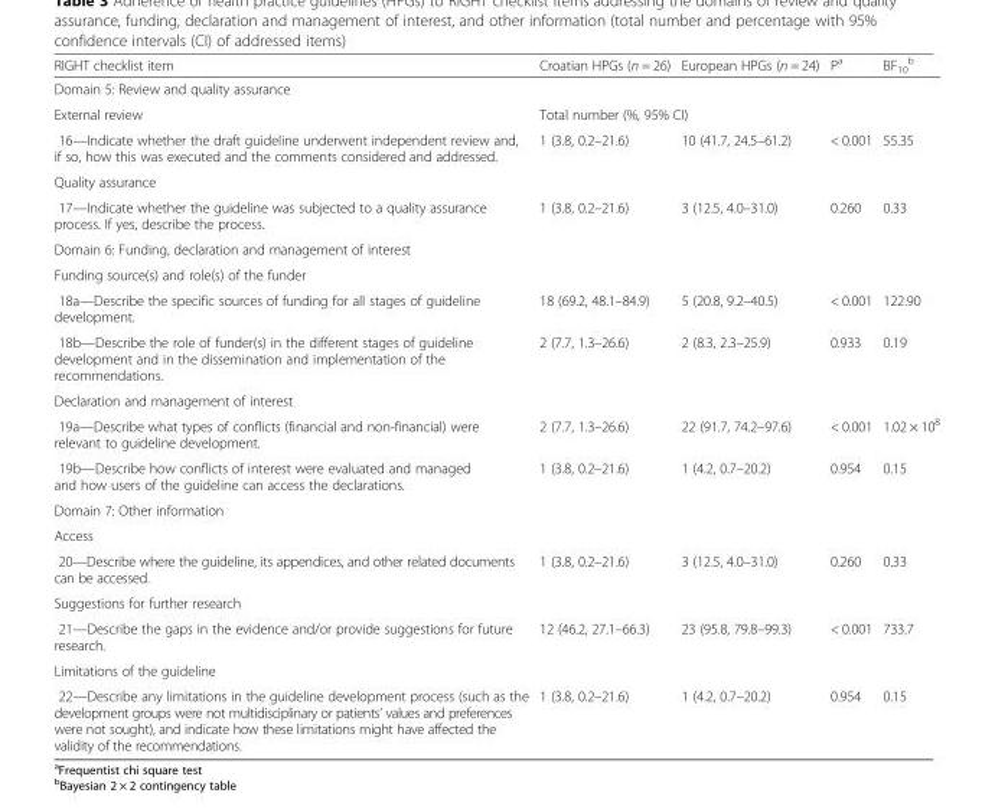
<table><thead><tr><td>RIGHT checklist item</td><td>Croatian HPGs (n = 26)</td><td>European HPGs (n = 24)</td><td>P<sup>a</sup></td><td>BF<sub>10</sub> <sup>b</sup></td></tr></thead><tbody><tr><td colspan="5">Domain 5: Review and quality assurance</td></tr><tr><td>External review</td><td colspan="2">Total number (%, 95% CI)</td><td colspan="2"></td></tr><tr><td>16—Indicate whether the draft guideline underwent independent review and, if so, how this was executed and the comments considered and addressed.</td><td>1 (3.8, 0.2–21.6)</td><td>10 (41.7, 24.5–61.2)</td><td>&lt; 0.001</td><td>55.35</td></tr><tr><td colspan="5">Quality assurance</td></tr><tr><td>17—Indicate whether the guideline was subjected to a quality assurance process. If yes, describe the process.</td><td>1 (3.8, 0.2–21.6)</td><td>3 (12.5, 4.0–31.0)</td><td>0.260</td><td>0.33</td></tr><tr><td colspan="5">Domain 6: Funding, declaration and management of interest</td></tr><tr><td colspan="5">Funding source(s) and role(s) of the funder</td></tr><tr><td>18a—Describe the specific sources of funding for all stages of guideline development.</td><td>18 (69.2, 48.1–84.9)</td><td>5 (20.8, 9.2–40.5)</td><td>&lt; 0.001</td><td>122.90</td></tr><tr><td>18b—Describe the role of funder(s) in the different stages of guideline development and in the dissemination and implementation of the recommendations.</td><td>2 (7.7, 1.3–26.6)</td><td>2 (8.3, 2.3–25.9)</td><td>0.933</td><td>0.19</td></tr><tr><td colspan="5">Declaration and management of interest</td></tr><tr><td>19a—Describe what types of conflicts (financial and non-financial) were relevant to guideline development.</td><td>2 (7.7, 1.3–26.6)</td><td>22 (91.7, 74.2–97.6)</td><td>&lt; 0.001</td><td>1.02 × 10<sup>8</sup></td></tr><tr><td>19b—Describe how conflicts of interest were evaluated and managed and how users of the guideline can access the declarations.</td><td>1 (3.8, 0.2–21.6)</td><td>1 (4.2, 0.7–20.2)</td><td>0.954</td><td>0.15</td></tr><tr><td colspan="5">Domain 7: Other information</td></tr><tr><td colspan="5">Access</td></tr><tr><td>20—Describe where the guideline, its appendices, and other related documents can be accessed.</td><td>1 (3.8, 0.2–21.6)</td><td>3 (12.5, 4.0–31.0)</td><td>0.260</td><td>0.33</td></tr><tr><td colspan="5">Suggestions for further research</td></tr><tr><td>21—Describe the gaps in the evidence and/or provide suggestions for future research.</td><td>12 (46.2, 27.1–66.3)</td><td>23 (95.8, 79.8–99.3)</td><td>&lt; 0.001</td><td>733.7</td></tr><tr><td colspan="5">Limitations of the guideline</td></tr><tr><td>22—Describe any limitations in the guideline development process (such as the development groups were not multidisciplinary or patients’ values and preferences were not sought), and indicate how these limitations might have affected the validity of the recommendations.</td><td>1 (3.8, 0.2–21.6)</td><td>1 (4.2, 0.7–20.2)</td><td>0.954</td><td>0.15</td></tr></tbody></table>